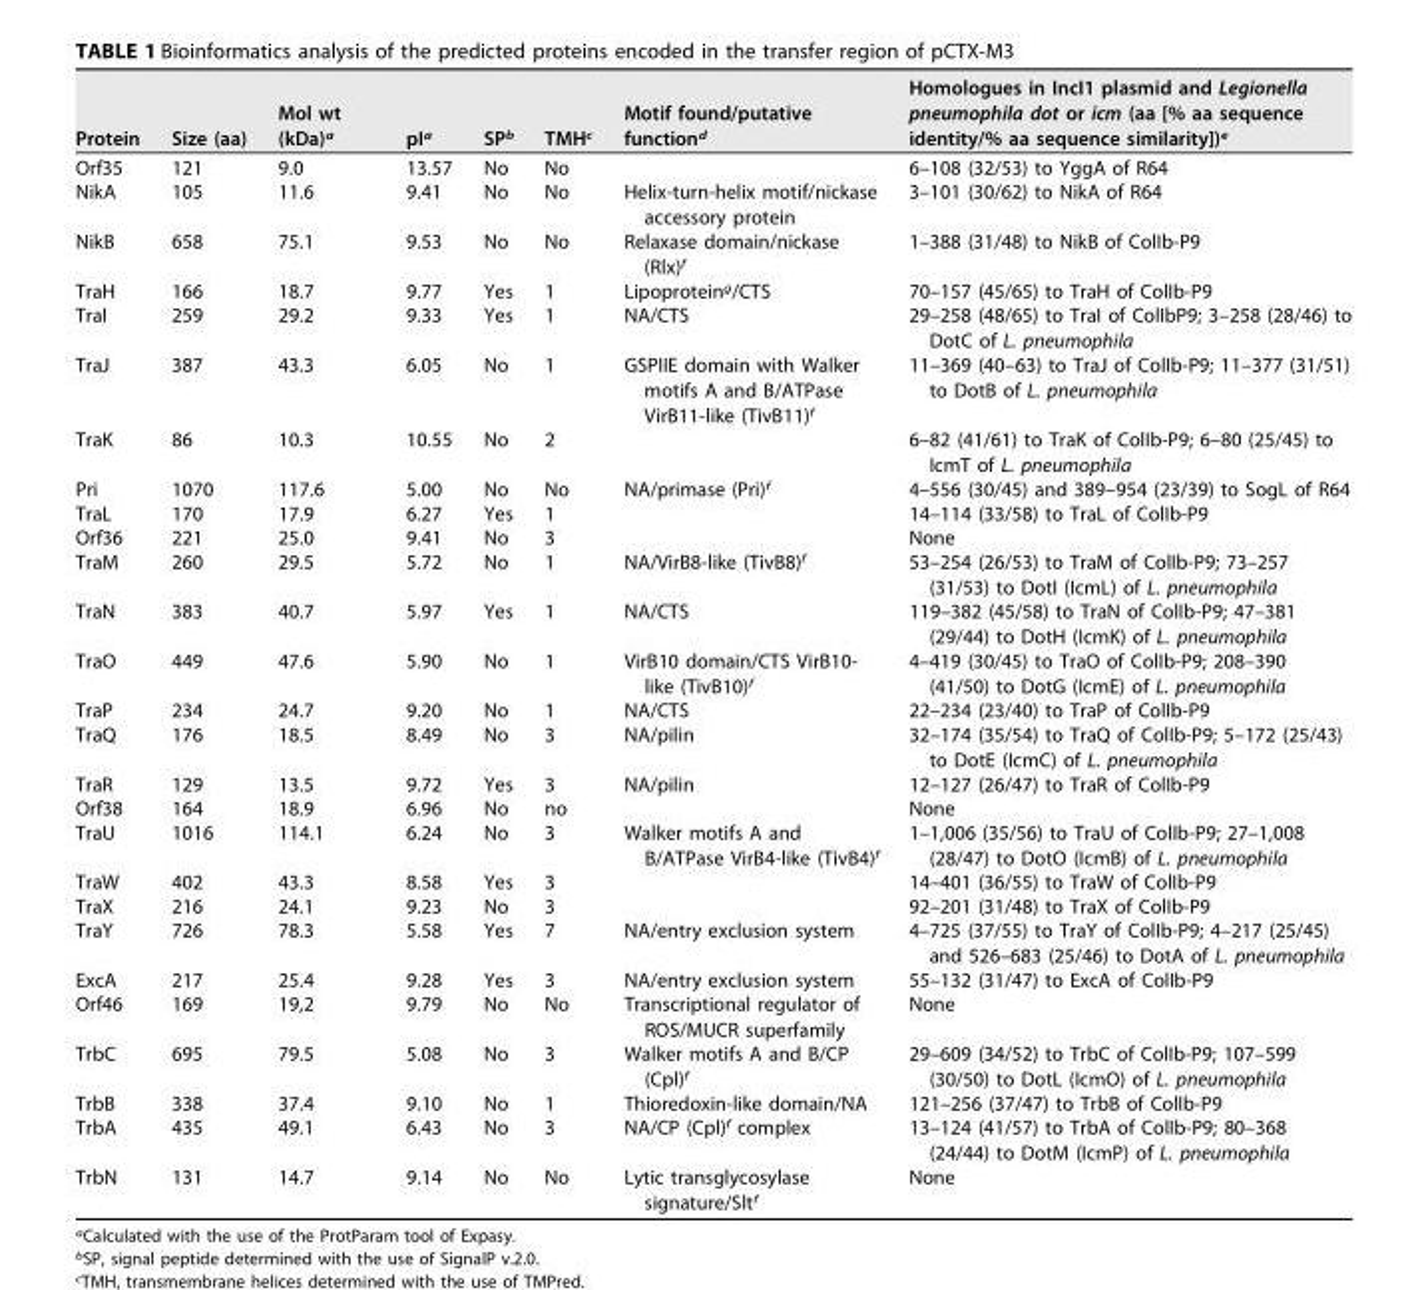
<table><thead><tr><td>Protein</td><td>Size (aa)</td><td>Mol wt (kDa)<sup>a</sup></td><td>pI<sup>a</sup></td><td>SP<sup>b</sup></td><td>TMH<sup>c</sup></td><td>Motif found/putative function<sup>d</sup></td><td>Homologues in IncI1 plasmid and Legionella pneumophila dot or icm (aa [% aa sequence identity/% aa sequence similarity])<sup>e</sup></td></tr></thead><tbody><tr><td>Orf35</td><td>121</td><td>9.0</td><td>13.57</td><td>No</td><td>No</td><td></td><td>6–108 (32/53) to YggA of R64</td></tr><tr><td>NikA</td><td>105</td><td>11.6</td><td>9.41</td><td>No</td><td>No</td><td>Helix-turn-helix motif/nickase accessory protein</td><td>3–101 (30/62) to NikA of R64</td></tr><tr><td>NikB</td><td>658</td><td>75.1</td><td>9.53</td><td>No</td><td>No</td><td>Relaxase domain/nickase (Rlx)<sup>f</sup></td><td>1–388 (31/48) to NikB of ColIb-P9</td></tr><tr><td>TraH</td><td>166</td><td>18.7</td><td>9.77</td><td>Yes</td><td>1</td><td>Lipoprotein<sup>g</sup>/CTS</td><td>70–157 (45/65) to TraH of ColIb-P9</td></tr><tr><td>TraI</td><td>259</td><td>29.2</td><td>9.33</td><td>Yes</td><td>1</td><td>NA/CTS</td><td>29–258 (48/65) to TraI of ColIbP9; 3–258 (28/46) to DotC of L. pneumophila</td></tr><tr><td>TraJ</td><td>387</td><td>43.3</td><td>6.05</td><td>No</td><td>1</td><td>GSPIIE domain with Walker motifs A and B/ATPase VirB11-like (TivB11)<sup>f</sup></td><td>11–369 (40–63) to TraJ of ColIb-P9; 11–377 (31/51) to DotB of L. pneumophila</td></tr><tr><td>TraK</td><td>86</td><td>10.3</td><td>10.55</td><td>No</td><td>2</td><td></td><td>6–82 (41/61) to TraK of ColIb-P9; 6–80 (25/45) to IcmT of L. pneumophila</td></tr><tr><td>Pri</td><td>1070</td><td>117.6</td><td>5.00</td><td>No</td><td>No</td><td>NA/primase (Pri)<sup>f</sup></td><td>4–556 (30/45) and 389–954 (23/39) to SogL of R64</td></tr><tr><td>TraL</td><td>170</td><td>17.9</td><td>6.27</td><td>Yes</td><td>1</td><td></td><td>14–114 (33/58) to TraL of ColIb-P9</td></tr><tr><td>Orf36</td><td>221</td><td>25.0</td><td>9.41</td><td>No</td><td>3</td><td></td><td>None</td></tr><tr><td>TraM</td><td>260</td><td>29.5</td><td>5.72</td><td>No</td><td>1</td><td>NA/VirB8-like (TivB8)<sup>f</sup></td><td>53–254 (26/53) to TraM of ColIb-P9; 73–257 (31/53) to DotI (IcmL) of L. pneumophila</td></tr><tr><td>TraN</td><td>383</td><td>40.7</td><td>5.97</td><td>Yes</td><td>1</td><td>NA/CTS</td><td>119–382 (45/58) to TraN of ColIb-P9; 47–381 (29/44) to DotH (IcmK) of L. pneumophila</td></tr><tr><td>TraO</td><td>449</td><td>47.6</td><td>5.90</td><td>No</td><td>1</td><td>VirB10 domain/CTS VirB10- like (TivB10)<sup>f</sup></td><td>4–419 (30/45) to TraO of ColIb-P9; 208–390 (41/50) to DotG (IcmE) of L. pneumophila</td></tr><tr><td>TraP</td><td>234</td><td>24.7</td><td>9.20</td><td>No</td><td>1</td><td>NA/CTS</td><td>22–234 (23/40) to TraP of ColIb-P9</td></tr><tr><td>TraQ</td><td>176</td><td>18.5</td><td>8.49</td><td>No</td><td>3</td><td>NA/pilin</td><td>32–174 (35/54) to TraQ of ColIb-P9; 5–172 (25/43) to DotE (IcmC) of L. pneumophila</td></tr><tr><td>TraR</td><td>129</td><td>13.5</td><td>9.72</td><td>Yes</td><td>3</td><td>NA/pilin</td><td>12–127 (26/47) to TraR of ColIb-P9</td></tr><tr><td>Orf38</td><td>164</td><td>18.9</td><td>6.96</td><td>No</td><td>no</td><td></td><td>None</td></tr><tr><td>TraU</td><td>1016</td><td>114.1</td><td>6.24</td><td>No</td><td>3</td><td>Walker motifs A and B/ATPase VirB4-like (TivB4)<sup>f</sup></td><td>1–1,006 (35/56) to TraU of ColIb-P9; 27–1,008 (28/47) to DotO (IcmB) of L. pneumophila</td></tr><tr><td>TraW</td><td>402</td><td>43.3</td><td>8.58</td><td>Yes</td><td>3</td><td></td><td>14–401 (36/55) to TraW of ColIb-P9</td></tr><tr><td>TraX</td><td>216</td><td>24.1</td><td>9.23</td><td>No</td><td>3</td><td></td><td>92–201 (31/48) to TraX of ColIb-P9</td></tr><tr><td>TraY</td><td>726</td><td>78.3</td><td>5.58</td><td>Yes</td><td>7</td><td>NA/entry exclusion system</td><td>4–725 (37/55) to TraY of ColIb-P9; 4–217 (25/45) and 526–683 (25/46) to DotA of L. pneumophila</td></tr><tr><td>ExcA</td><td>217</td><td>25.4</td><td>9.28</td><td>Yes</td><td>3</td><td>NA/entry exclusion system</td><td>55–132 (31/47) to ExcA of ColIb-P9</td></tr><tr><td>Orf46</td><td>169</td><td>19,2</td><td>9.79</td><td>No</td><td>No</td><td>Transcriptional regulator of ROS/MUCR superfamily</td><td>None</td></tr><tr><td>TrbC</td><td>695</td><td>79.5</td><td>5.08</td><td>No</td><td>3</td><td>Walker motifs A and B/CP (Cpl)<sup>f</sup></td><td>29–609 (34/52) to TrbC of ColIb-P9; 107–599 (30/50) to DotL (IcmO) of L. pneumophila</td></tr><tr><td>TrbB</td><td>338</td><td>37.4</td><td>9.10</td><td>No</td><td>1</td><td>Thioredoxin-like domain/NA</td><td>121–256 (37/47) to TrbB of ColIb-P9</td></tr><tr><td>TrbA</td><td>435</td><td>49.1</td><td>6.43</td><td>No</td><td>3</td><td>NA/CP (Cpl)<sup>f</sup> complex</td><td>13–124 (41/57) to TrbA of ColIb-P9; 80–368 (24/44) to DotM (IcmP) of L. pneumophila</td></tr><tr><td>TrbN</td><td>131</td><td>14.7</td><td>9.14</td><td>No</td><td>No</td><td>Lytic transglycosylase signature/Slt<sup>f</sup></td><td>None</td></tr></tbody></table>